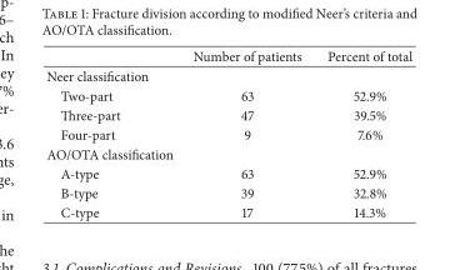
<table><thead><tr><td></td><td>Number of patients</td><td>Percent of total</td></tr></thead><tbody><tr><td colspan="3">Neer classification</td></tr><tr><td>Two-part</td><td>63</td><td>52.9%</td></tr><tr><td>Three-part</td><td>47</td><td>39.5%</td></tr><tr><td>Four-part</td><td>9</td><td>7.6%</td></tr><tr><td colspan="3">AO/OTA classification</td></tr><tr><td>A-type</td><td>63</td><td>52.9%</td></tr><tr><td>B-type</td><td>39</td><td>32.8%</td></tr><tr><td>C-type</td><td>17</td><td>14.3%</td></tr></tbody></table>